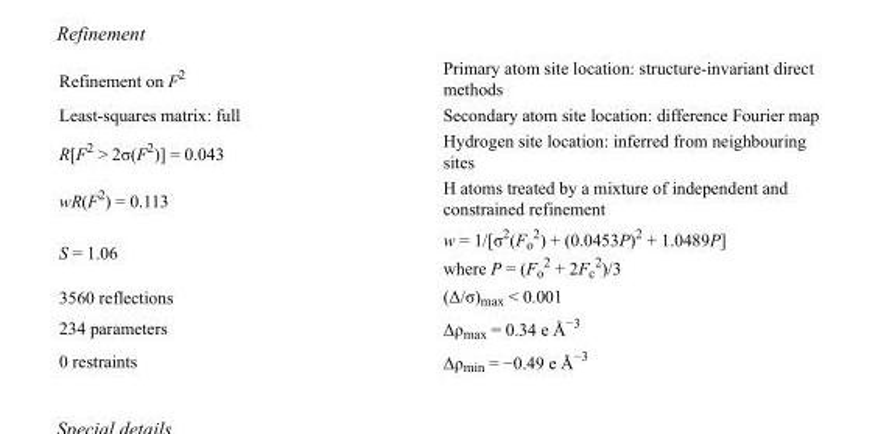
<table><tbody><tr><td>Refinement on F<sup>2</sup></td><td>Primary atom site location: structure-invariant direct methods</td></tr><tr><td>Least-squares matrix: full</td><td>Secondary atom site location: difference Fourier map</td></tr><tr><td>R[F<sup>2</sup> &gt; 2σ(F<sup>2</sup>)] = 0.043</td><td>Hydrogen site location: inferred from neighbouring sites</td></tr><tr><td>wR(F<sup>2</sup>) = 0.113</td><td>H atoms treated by a mixture of independent and constrained refinement</td></tr><tr><td>S = 1.06</td><td>w = 1/[σ<sup>2</sup>(F<sub>o</sub> <sup>2</sup>) + (0.0453P)<sup>2</sup> + 1.0489P] where P = (F<sub>o</sub> <sup>2</sup> + 2F<sub>c</sub> <sup>2</sup>)/3</td></tr><tr><td>3560 reflections</td><td>(Δ/σ)<sub>max</sub> &lt; 0.001</td></tr><tr><td>234 parameters</td><td>Δρ<sub>max</sub> = 0.34 e Å<sup>−3</sup></td></tr><tr><td>0 restraints</td><td>Δρ<sub>min</sub> = −0.49 e Å<sup>−3</sup></td></tr></tbody></table>